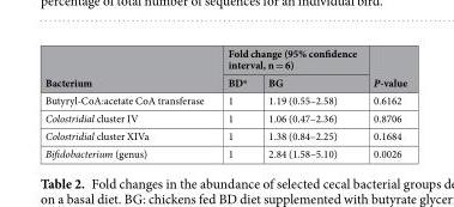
<table><thead><tr><td rowspan="2">Bacterium</td><td colspan="2">Fold change (95% confidence interval, n = 6)</td><td rowspan="2">P-value</td></tr><tr><td>BD<sup>a</sup></td><td>BG</td></tr></thead><tbody><tr><td>Butyryl-CoA:acetate CoA transferase</td><td>1</td><td>1.19 (0.55–2.58)</td><td>0.6162</td></tr><tr><td>Colostridial cluster IV</td><td>1</td><td>1.06 (0.47–2.36)</td><td>0.8706</td></tr><tr><td>Colostridial cluster XIVa</td><td>1</td><td>1.38 (0.84–2.25)</td><td>0.1684</td></tr><tr><td>Bifidobacterium (genus)</td><td>1</td><td>2.84 (1.58–5.10)</td><td>0.0026</td></tr></tbody></table>